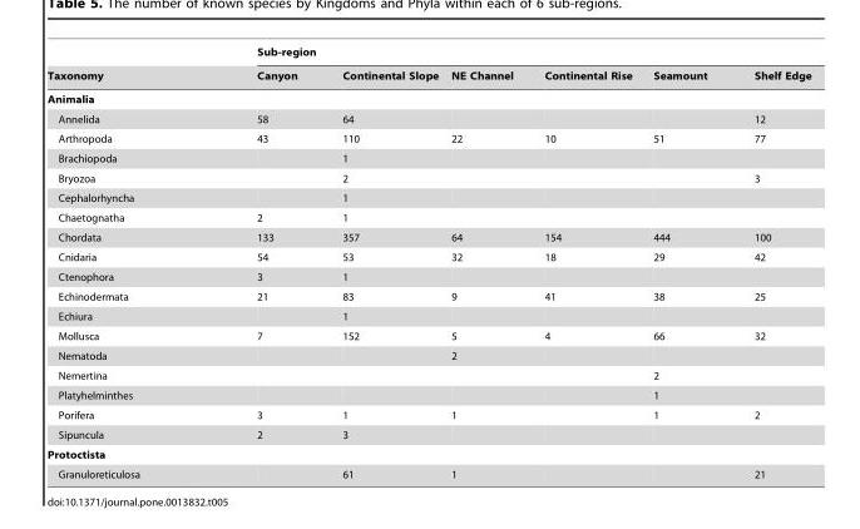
<table><thead><tr><td rowspan="2">Taxonomy</td><td colspan="6">Sub-region</td></tr><tr><td>Canyon</td><td>Continental Slope</td><td>NE Channel</td><td>Continental Rise</td><td>Seamount</td><td>Shelf Edge</td></tr></thead><tbody><tr><td colspan="7">Animalia</td></tr><tr><td>Annelida</td><td>58</td><td>64</td><td></td><td></td><td></td><td>12</td></tr><tr><td>Arthropoda</td><td>43</td><td>110</td><td>22</td><td>10</td><td>51</td><td>77</td></tr><tr><td>Brachiopoda</td><td></td><td>1</td><td></td><td></td><td></td><td></td></tr><tr><td>Bryozoa</td><td></td><td>2</td><td></td><td></td><td></td><td>3</td></tr><tr><td>Cephalorhyncha</td><td></td><td>1</td><td></td><td></td><td></td><td></td></tr><tr><td>Chaetognatha</td><td>2</td><td>1</td><td></td><td></td><td></td><td></td></tr><tr><td>Chordata</td><td>133</td><td>357</td><td>64</td><td>154</td><td>444</td><td>100</td></tr><tr><td>Cnidaria</td><td>54</td><td>53</td><td>32</td><td>18</td><td>29</td><td>42</td></tr><tr><td>Ctenophora</td><td>3</td><td>1</td><td></td><td></td><td></td><td></td></tr><tr><td>Echinodermata</td><td>21</td><td>83</td><td>9</td><td>41</td><td>38</td><td>25</td></tr><tr><td>Echiura</td><td></td><td>1</td><td></td><td></td><td></td><td></td></tr><tr><td>Mollusca</td><td>7</td><td>152</td><td>5</td><td>4</td><td>66</td><td>32</td></tr><tr><td>Nematoda</td><td></td><td></td><td>2</td><td></td><td></td><td></td></tr><tr><td>Nemertina</td><td></td><td></td><td></td><td></td><td>2</td><td></td></tr><tr><td>Platyhelminthes</td><td></td><td></td><td></td><td></td><td>1</td><td></td></tr><tr><td>Porifera</td><td>3</td><td>1</td><td>1</td><td></td><td>1</td><td>2</td></tr><tr><td>Sipuncula</td><td>2</td><td>3</td><td></td><td></td><td></td><td></td></tr><tr><td colspan="7">Protoctista</td></tr><tr><td>Granuloreticulosa</td><td></td><td>61</td><td>1</td><td></td><td></td><td>21</td></tr></tbody></table>